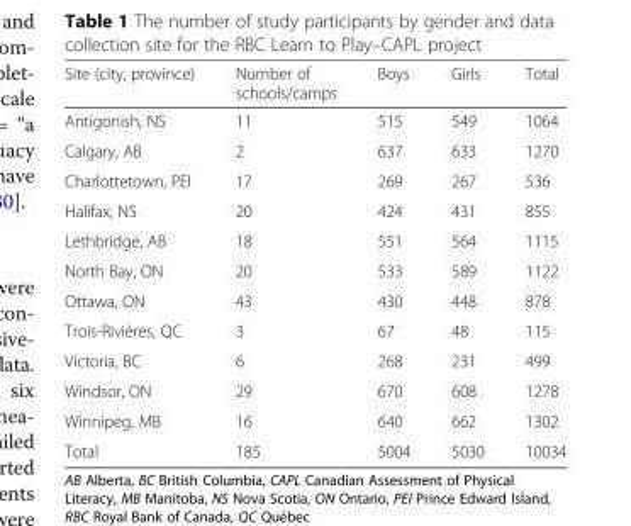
<table><thead><tr><td>Site (city, province)</td><td>Number of schools/camps</td><td>Boys</td><td>Girls</td><td>Total</td></tr></thead><tbody><tr><td>Antigonish, NS</td><td>11</td><td>515</td><td>549</td><td>1064</td></tr><tr><td>Calgary, AB</td><td>2</td><td>637</td><td>633</td><td>1270</td></tr><tr><td>Charlottetown, PEI</td><td>17</td><td>269</td><td>267</td><td>536</td></tr><tr><td>Halifax, NS</td><td>20</td><td>424</td><td>431</td><td>855</td></tr><tr><td>Lethbridge, AB</td><td>18</td><td>551</td><td>564</td><td>1115</td></tr><tr><td>North Bay, ON</td><td>20</td><td>533</td><td>589</td><td>1122</td></tr><tr><td>Ottawa, ON</td><td>43</td><td>430</td><td>448</td><td>878</td></tr><tr><td>Trois-Rivières, QC</td><td>3</td><td>67</td><td>48</td><td>115</td></tr><tr><td>Victoria, BC</td><td>6</td><td>268</td><td>231</td><td>499</td></tr><tr><td>Windsor, ON</td><td>29</td><td>670</td><td>608</td><td>1278</td></tr><tr><td>Winnipeg, MB</td><td>16</td><td>640</td><td>662</td><td>1302</td></tr><tr><td>Total</td><td>185</td><td>5004</td><td>5030</td><td>10034</td></tr></tbody></table>